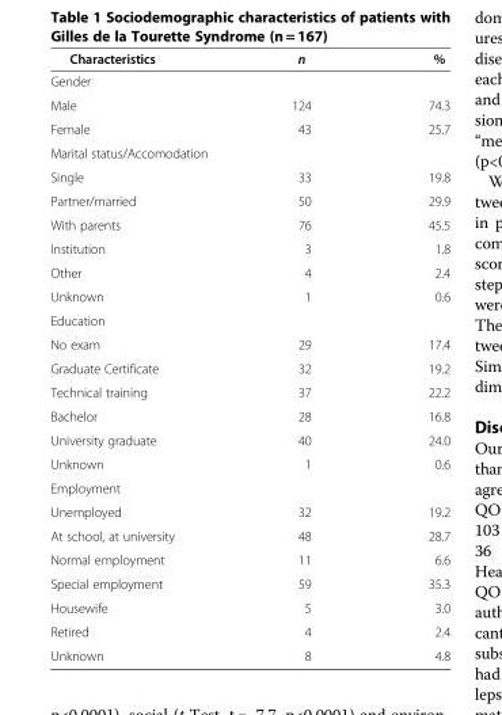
<table><thead><tr><td>Characteristics</td><td>n</td><td>%</td></tr></thead><tbody><tr><td colspan="3">Gender</td></tr><tr><td>Male</td><td>124</td><td>74.3</td></tr><tr><td>Female</td><td>43</td><td>25.7</td></tr><tr><td colspan="3">Marital status/Accomodation</td></tr><tr><td>Single</td><td>33</td><td>19.8</td></tr><tr><td>Partner/married</td><td>50</td><td>29.9</td></tr><tr><td>With parents</td><td>76</td><td>45.5</td></tr><tr><td>Institution</td><td>3</td><td>1.8</td></tr><tr><td>Other</td><td>4</td><td>2.4</td></tr><tr><td>Unknown</td><td>1</td><td>0.6</td></tr><tr><td colspan="3">Education</td></tr><tr><td>No exam</td><td>29</td><td>17.4</td></tr><tr><td>Graduate Certificate</td><td>32</td><td>19.2</td></tr><tr><td>Technical training</td><td>37</td><td>22.2</td></tr><tr><td>Bachelor</td><td>28</td><td>16.8</td></tr><tr><td>University graduate</td><td>40</td><td>24.0</td></tr><tr><td>Unknown</td><td>1</td><td>0.6</td></tr><tr><td colspan="3">Employment</td></tr><tr><td>Unemployed</td><td>32</td><td>19.2</td></tr><tr><td>At school, at university</td><td>48</td><td>28.7</td></tr><tr><td>Normal employment</td><td>11</td><td>6.6</td></tr><tr><td>Special employment</td><td>59</td><td>35.3</td></tr><tr><td>Housewife</td><td>5</td><td>3.0</td></tr><tr><td>Retired</td><td>4</td><td>2.4</td></tr><tr><td>Unknown</td><td>8</td><td>4.8</td></tr></tbody></table>